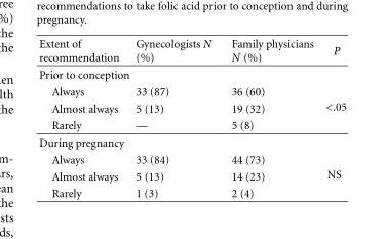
<table><thead><tr><td>Extent of recommendation</td><td>Gynecologists N (%)</td><td>Family physicians N (%)</td><td>P</td></tr></thead><tbody><tr><td colspan="4">Prior to conception</td></tr><tr><td>Always</td><td>33 (87)</td><td>36 (60)</td><td rowspan="3">&lt;.05</td></tr><tr><td>Almost always</td><td>5 (13)</td><td>19 (32)</td></tr><tr><td>Rarely</td><td>—</td><td>5 (8)</td></tr><tr><td colspan="4">During pregnancy</td></tr><tr><td>Always</td><td>33 (84)</td><td>44 (73)</td><td rowspan="3">NS</td></tr><tr><td>Almost always</td><td>5 (13)</td><td>14 (23)</td></tr><tr><td>Rarely</td><td>1 (3)</td><td>2 (4)</td></tr></tbody></table>